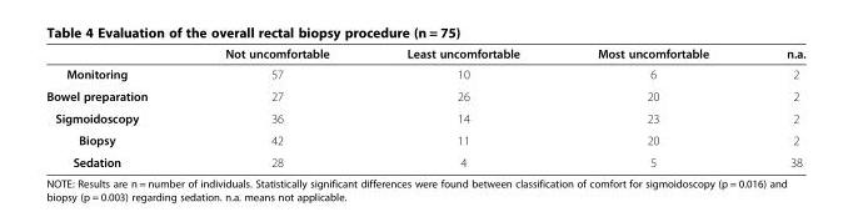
<table><thead><tr><td></td><td>Not uncomfortable</td><td>Least uncomfortable</td><td>Most uncomfortable</td><td>n.a.</td></tr></thead><tbody><tr><td>Monitoring</td><td>57</td><td>10</td><td>6</td><td>2</td></tr><tr><td>Bowel preparation</td><td>27</td><td>26</td><td>20</td><td>2</td></tr><tr><td>Sigmoidoscopy</td><td>36</td><td>14</td><td>23</td><td>2</td></tr><tr><td>Biopsy</td><td>42</td><td>11</td><td>20</td><td>2</td></tr><tr><td>Sedation</td><td>28</td><td>4</td><td>5</td><td>38</td></tr></tbody></table>